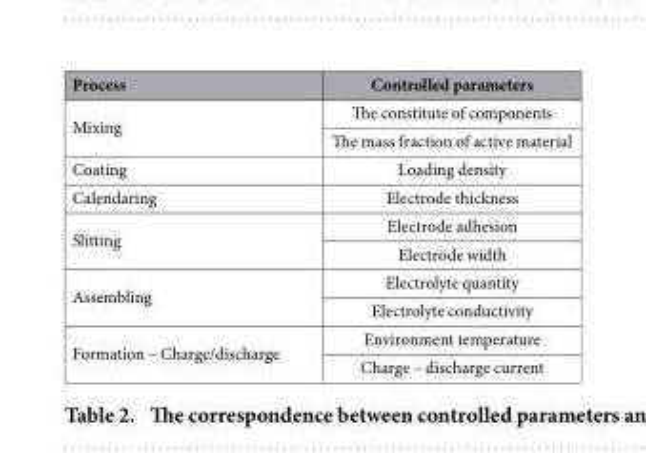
<table><thead><tr><td>Process</td><td>Controlled parameters</td></tr></thead><tbody><tr><td rowspan="2">Mixing</td><td>The constitute of components</td></tr><tr><td>The mass fraction of active material</td></tr><tr><td>Coating</td><td>Loading density</td></tr><tr><td>Calendaring</td><td>Electrode thickness</td></tr><tr><td rowspan="2">Slitting</td><td>Electrode adhesion</td></tr><tr><td>Electrode width</td></tr><tr><td rowspan="2">Assembling</td><td>Electrolyte quantity</td></tr><tr><td>Electrolyte conductivity</td></tr><tr><td rowspan="2">Formation – Charge/discharge</td><td>Environment temperature</td></tr><tr><td>Charge – discharge current</td></tr></tbody></table>